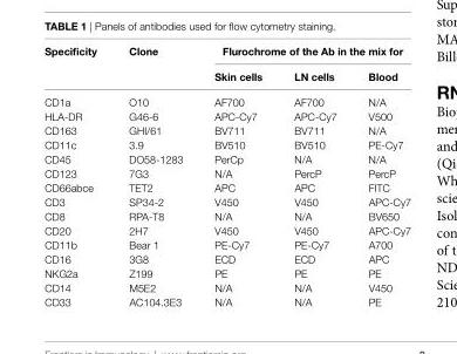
<table><thead><tr><td rowspan="2">specificity</td><td rowspan="2">clone</td><td colspan="3">Flurochrome of the ab in the mix for</td></tr><tr><td>skin cells</td><td>ln cells</td><td>Blood</td></tr></thead><tbody><tr><td>CD1a</td><td>O10</td><td>AF700</td><td>AF700</td><td>N/A</td></tr><tr><td>HLA-DR</td><td>G46-6</td><td>APC-Cy7</td><td>APC-Cy7</td><td>V500</td></tr><tr><td>CD163</td><td>GHI/61</td><td>BV711</td><td>BV711</td><td>N/A</td></tr><tr><td>CD11c</td><td>3.9</td><td>BV510</td><td>BV510</td><td>PE-Cy7</td></tr><tr><td>CD45</td><td>DO58-1283</td><td>PerCp</td><td>N/A</td><td>N/A</td></tr><tr><td>CD123</td><td>7G3</td><td>N/A</td><td>PercP</td><td>PercP</td></tr><tr><td>CD66abce</td><td>TET2</td><td>APC</td><td>APC</td><td>FITC</td></tr><tr><td>CD3</td><td>SP34-2</td><td>V450</td><td>V450</td><td>APC-Cy7</td></tr><tr><td>CD8</td><td>RPA-T8</td><td>N/A</td><td>N/A</td><td>BV650</td></tr><tr><td>CD20</td><td>2H7</td><td>V450</td><td>V450</td><td>APC-Cy7</td></tr><tr><td>CD11b</td><td>Bear 1</td><td>PE-Cy7</td><td>PE-Cy7</td><td>A700</td></tr><tr><td>CD16</td><td>3G8</td><td>ECD</td><td>ECD</td><td>APC</td></tr><tr><td>NKG2a</td><td>Z199</td><td>PE</td><td>PE</td><td>PE</td></tr><tr><td>CD14</td><td>M5E2</td><td>N/A</td><td>N/A</td><td>V450</td></tr><tr><td>CD33</td><td>AC104.3E3</td><td>N/A</td><td>N/A</td><td>PE</td></tr></tbody></table>